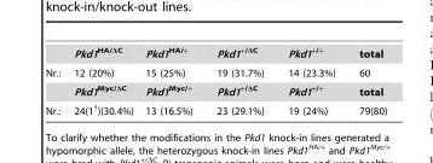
<table><thead><tr><td></td><td>Pkd1<sup>HA/ΔC</sup></td><td>Pkd1<sup>HA/+</sup></td><td>Pkd1<sup>+/ΔC</sup></td><td>Pkd1<sup>+/+</sup></td><td>total</td></tr></thead><tbody><tr><td rowspan="2">Nr.:</td><td>12 (20%)</td><td>15 (25%)</td><td>19 (31.7%)</td><td>14 (23.3%)</td><td>60</td></tr><tr><td>Pkd1<sup>Myc/ΔC</sup></td><td>Pkd1<sup>Myc/+</sup></td><td>Pkd1<sup>+/ΔC</sup></td><td>Pkd1<sup>+/+</sup></td><td>total</td></tr><tr><td>Nr.:</td><td>24(1<sup>†</sup>)(30.4%)</td><td>13 (16.5%)</td><td>23 (29.1%)</td><td>19 (24%)</td><td>79(80)</td></tr></tbody></table>